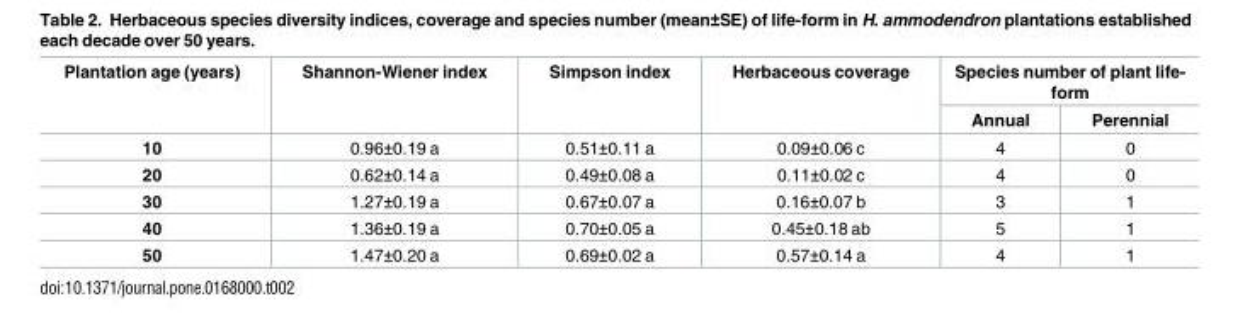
<table><thead><tr><td rowspan="2">Plantation age (years)</td><td rowspan="2">Shannon-Wiener index</td><td rowspan="2">Simpson index</td><td rowspan="2">Herbaceous coverage</td><td colspan="2">Species number of plant life- form</td></tr><tr><td>Annual</td><td>Perennial</td></tr></thead><tbody><tr><td>10</td><td>0.96±0.19 a</td><td>0.51±0.11 a</td><td>0.09±0.06 c</td><td>4</td><td>0</td></tr><tr><td>20</td><td>0.62±0.14 a</td><td>0.49±0.08 a</td><td>0.11±0.02 c</td><td>4</td><td>0</td></tr><tr><td>30</td><td>1.27±0.19 a</td><td>0.67±0.07 a</td><td>0.16±0.07 b</td><td>3</td><td>1</td></tr><tr><td>40</td><td>1.36±0.19 a</td><td>0.70±0.05 a</td><td>0.45±0.18 ab</td><td>5</td><td>1</td></tr><tr><td>50</td><td>1.47±0.20 a</td><td>0.69±0.02 a</td><td>0.57±0.14 a</td><td>4</td><td>1</td></tr></tbody></table>